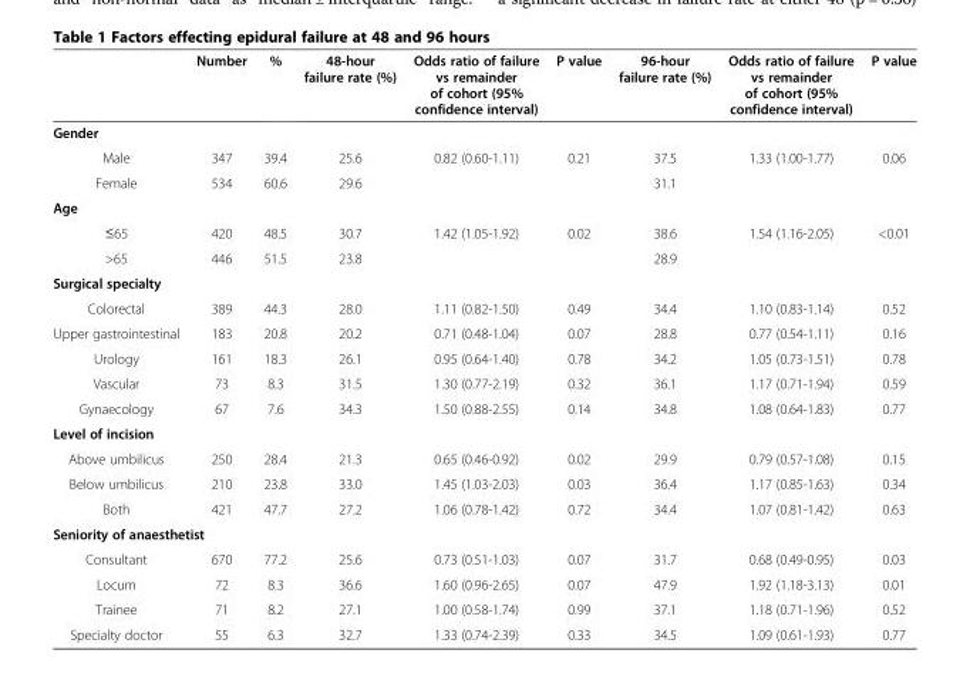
<table><thead><tr><td></td><td>Number</td><td>%</td><td>48-hour failure rate (%)</td><td>Odds ratio of failure vs remainder of cohort (95% confidence interval)</td><td>P value</td><td>96-hour failure rate (%)</td><td>Odds ratio of failure vs remainder of cohort (95% confidence interval)</td><td>P value</td></tr></thead><tbody><tr><td colspan="9">Gender</td></tr><tr><td>Male</td><td>347</td><td>39.4</td><td>25.6</td><td rowspan="2">0.82 (0.60-1.11)</td><td rowspan="2">0.21</td><td>37.5</td><td>1.33 (1.00-1.77)</td><td>0.06</td></tr><tr><td>Female</td><td>534</td><td>60.6</td><td>29.6</td><td>31.1</td><td></td><td></td></tr><tr><td colspan="9">Age</td></tr><tr><td>≤65</td><td>420</td><td>48.5</td><td>30.7</td><td rowspan="2">1.42 (1.05-1.92)</td><td rowspan="2">0.02</td><td>38.6</td><td>1.54 (1.16-2.05)</td><td>&lt;0.01</td></tr><tr><td>&gt;65</td><td>446</td><td>51.5</td><td>23.8</td><td>28.9</td><td></td><td></td></tr><tr><td colspan="9">Surgical specialty</td></tr><tr><td>Colorectal</td><td>389</td><td>44.3</td><td>28.0</td><td>1.11 (0.82-1.50)</td><td>0.49</td><td>34.4</td><td>1.10 (0.83-1.14)</td><td>0.52</td></tr><tr><td>Upper gastrointestinal</td><td>183</td><td>20.8</td><td>20.2</td><td>0.71 (0.48-1.04)</td><td>0.07</td><td>28.8</td><td>0.77 (0.54-1.11)</td><td>0.16</td></tr><tr><td>Urology</td><td>161</td><td>18.3</td><td>26.1</td><td>0.95 (0.64-1.40)</td><td>0.78</td><td>34.2</td><td>1.05 (0.73-1.51)</td><td>0.78</td></tr><tr><td>Vascular</td><td>73</td><td>8.3</td><td>31.5</td><td>1.30 (0.77-2.19)</td><td>0.32</td><td>36.1</td><td>1.17 (0.71-1.94)</td><td>0.59</td></tr><tr><td>Gynaecology</td><td>67</td><td>7.6</td><td>34.3</td><td>1.50 (0.88-2.55)</td><td>0.14</td><td>34.8</td><td>1.08 (0.64-1.83)</td><td>0.77</td></tr><tr><td colspan="9">Level of incision</td></tr><tr><td>Above umbilicus</td><td>250</td><td>28.4</td><td>21.3</td><td>0.65 (0.46-0.92)</td><td>0.02</td><td>29.9</td><td>0.79 (0.57-1.08)</td><td>0.15</td></tr><tr><td>Below umbilicus</td><td>210</td><td>23.8</td><td>33.0</td><td>1.45 (1.03-2.03)</td><td>0.03</td><td>36.4</td><td>1.17 (0.85-1.63)</td><td>0.34</td></tr><tr><td>Both</td><td>421</td><td>47.7</td><td>27.2</td><td>1.06 (0.78-1.42)</td><td>0.72</td><td>34.4</td><td>1.07 (0.81-1.42)</td><td>0.63</td></tr><tr><td colspan="9">Seniority of anaesthetist</td></tr><tr><td>Consultant</td><td>670</td><td>77.2</td><td>25.6</td><td>0.73 (0.51-1.03)</td><td>0.07</td><td>31.7</td><td>0.68 (0.49-0.95)</td><td>0.03</td></tr><tr><td>Locum</td><td>72</td><td>8.3</td><td>36.6</td><td>1.60 (0.96-2.65)</td><td>0.07</td><td>47.9</td><td>1.92 (1.18-3.13)</td><td>0.01</td></tr><tr><td>Trainee</td><td>71</td><td>8.2</td><td>27.1</td><td>1.00 (0.58-1.74)</td><td>0.99</td><td>37.1</td><td>1.18 (0.71-1.96)</td><td>0.52</td></tr><tr><td>Specialty doctor</td><td>55</td><td>6.3</td><td>32.7</td><td>1.33 (0.74-2.39)</td><td>0.33</td><td>34.5</td><td>1.09 (0.61-1.93)</td><td>0.77</td></tr></tbody></table>